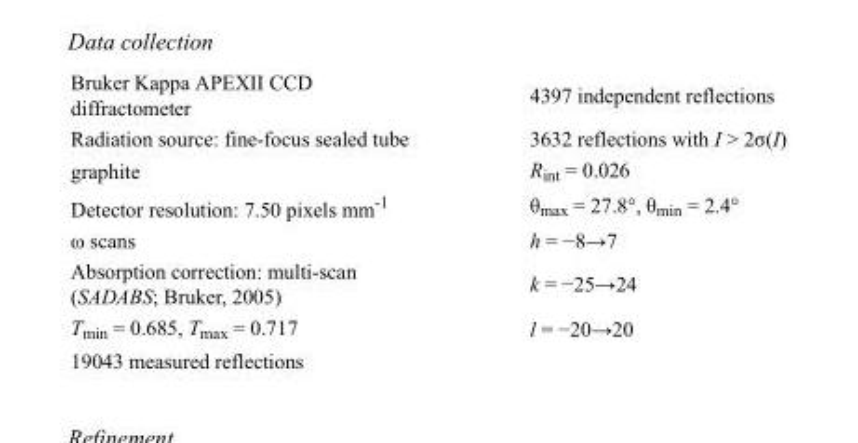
<table><tbody><tr><td>Bruker Kappa APEXII CCD diffractometer</td><td>4397 independent reflections</td></tr><tr><td>Radiation source: fine-focus sealed tube</td><td>3632 reflections with I &gt; 2σ(I)</td></tr><tr><td>graphite</td><td>R<sub>int</sub> = 0.026</td></tr><tr><td>Detector resolution: 7.50 pixels mm<sup>-1</sup></td><td>θ<sub>max</sub> = 27.8°, θ<sub>min</sub> = 2.4°</td></tr><tr><td>ω scans</td><td>h = −8→7</td></tr><tr><td>Absorption correction: multi-scan (SADABS; Bruker, 2005)</td><td>k = −25→24</td></tr><tr><td>T<sub>min</sub> = 0.685, T<sub>max</sub> = 0.717</td><td>l = −20→20</td></tr><tr><td>19043 measured reflections</td><td></td></tr></tbody></table>